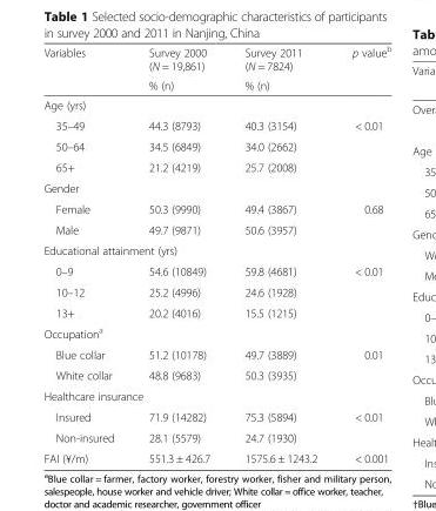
<table><thead><tr><td rowspan="2">Variables</td><td rowspan="2">Survey 2000 (N = 19,861) % (n)</td><td rowspan="2">Survey 2011 (N = 7824) % (n)</td><td rowspan="2">p value<sup>b</sup></td></tr><tr></tr></thead><tbody><tr><td colspan="4">Age (yrs)</td></tr><tr><td>35–49</td><td>44.3 (8793)</td><td>40.3 (3154)</td><td rowspan="3">&lt; 0.01</td></tr><tr><td>50–64</td><td>34.5 (6849)</td><td>34.0 (2662)</td></tr><tr><td>65+</td><td>21.2 (4219)</td><td>25.7 (2008)</td></tr><tr><td colspan="4">Gender</td></tr><tr><td>Female</td><td>50.3 (9990)</td><td>49.4 (3867)</td><td rowspan="2">0.68</td></tr><tr><td>Male</td><td>49.7 (9871)</td><td>50.6 (3957)</td></tr><tr><td colspan="4">Educational attainment (yrs)</td></tr><tr><td>0–9</td><td>54.6 (10849)</td><td>59.8 (4681)</td><td rowspan="3">&lt; 0.01</td></tr><tr><td>10–12</td><td>25.2 (4996)</td><td>24.6 (1928)</td></tr><tr><td>13+</td><td>20.2 (4016)</td><td>15.5 (1215)</td></tr><tr><td colspan="4">Occupation<sup>a</sup></td></tr><tr><td>Blue collar</td><td>51.2 (10178)</td><td>49.7 (3889)</td><td rowspan="2">0.01</td></tr><tr><td>White collar</td><td>48.8 (9683)</td><td>50.3 (3935)</td></tr><tr><td colspan="4">Healthcare insurance</td></tr><tr><td>Insured</td><td>71.9 (14282)</td><td>75.3 (5894)</td><td rowspan="2">&lt; 0.01</td></tr><tr><td>Non-insured</td><td>28.1 (5579)</td><td>24.7 (1930)</td></tr><tr><td>FAI (¥/m)</td><td>551.3 ± 426.7</td><td>1575.6 ± 1243.2</td><td>&lt; 0.001</td></tr></tbody></table>